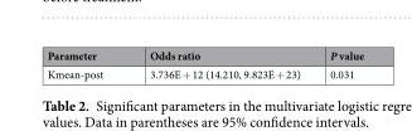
<table><thead><tr><td>Parameter</td><td>Odds ratio</td><td>P value</td></tr></thead><tbody><tr><td>Kmean-post</td><td>3.736E + 12 (14.210, 9.823E + 23)</td><td>0.031</td></tr></tbody></table>